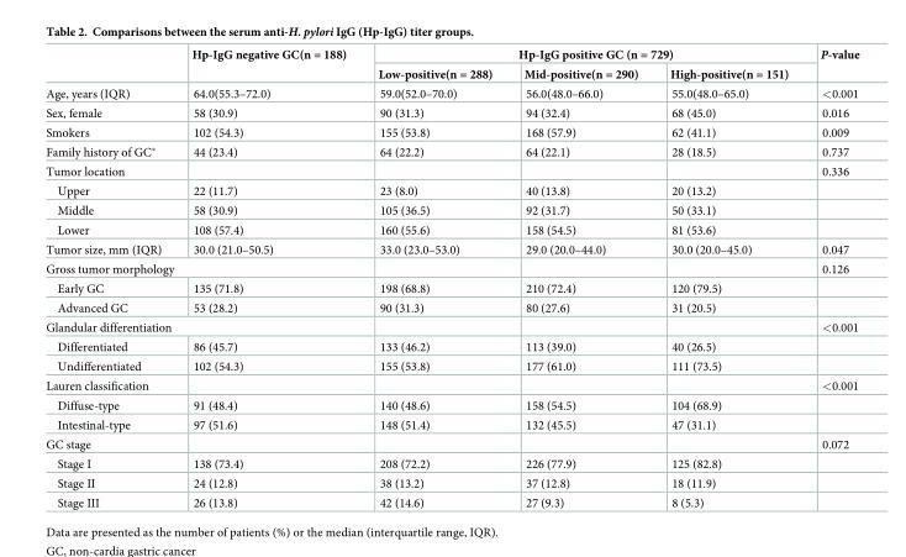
<table><thead><tr><td rowspan="2"></td><td rowspan="2">Hp-IgG negative GC(n = 188)</td><td colspan="3">Hp-IgG positive GC (n = 729)</td><td rowspan="2">P-value</td></tr><tr><td>Low-positive(n = 288)</td><td>Mid-positive(n = 290)</td><td>High-positive(n = 151)</td></tr></thead><tbody><tr><td>Age, years (IQR)</td><td>64.0(55.3–72.0)</td><td>59.0(52.0–70.0)</td><td>56.0(48.0–66.0)</td><td>55.0(48.0–65.0)</td><td>&lt;0.001</td></tr><tr><td>Sex, female</td><td>58 (30.9)</td><td>90 (31.3)</td><td>94 (32.4)</td><td>68 (45.0)</td><td>0.016</td></tr><tr><td>Smokers</td><td>102 (54.3)</td><td>155 (53.8)</td><td>168 (57.9)</td><td>62 (41.1)</td><td>0.009</td></tr><tr><td>Family history of GC*</td><td>44 (23.4)</td><td>64 (22.2)</td><td>64 (22.1)</td><td>28 (18.5)</td><td>0.737</td></tr><tr><td>Tumor location</td><td></td><td></td><td></td><td></td><td>0.336</td></tr><tr><td>Upper</td><td>22 (11.7)</td><td>23 (8.0)</td><td>40 (13.8)</td><td>20 (13.2)</td><td></td></tr><tr><td>Middle</td><td>58 (30.9)</td><td>105 (36.5)</td><td>92 (31.7)</td><td>50 (33.1)</td><td></td></tr><tr><td>Lower</td><td>108 (57.4)</td><td>160 (55.6)</td><td>158 (54.5)</td><td>81 (53.6)</td><td></td></tr><tr><td>Tumor size, mm (IQR)</td><td>30.0 (21.0–50.5)</td><td>33.0 (23.0–53.0)</td><td>29.0 (20.0–44.0)</td><td>30.0 (20.0–45.0)</td><td>0.047</td></tr><tr><td colspan="2">Gross tumor morphology</td><td></td><td></td><td></td><td>0.126</td></tr><tr><td>Early GC</td><td>135 (71.8)</td><td>198 (68.8)</td><td>210 (72.4)</td><td>120 (79.5)</td><td></td></tr><tr><td>Advanced GC</td><td>53 (28.2)</td><td>90 (31.3)</td><td>80 (27.6)</td><td>31 (20.5)</td><td></td></tr><tr><td colspan="2">Glandular differentiation</td><td></td><td></td><td></td><td>&lt;0.001</td></tr><tr><td>Differentiated</td><td>86 (45.7)</td><td>133 (46.2)</td><td>113 (39.0)</td><td>40 (26.5)</td><td></td></tr><tr><td>Undifferentiated</td><td>102 (54.3)</td><td>155 (53.8)</td><td>177 (61.0)</td><td>111 (73.5)</td><td></td></tr><tr><td>Lauren classification</td><td></td><td></td><td></td><td></td><td>&lt;0.001</td></tr><tr><td>Diffuse-type</td><td>91 (48.4)</td><td>140 (48.6)</td><td>158 (54.5)</td><td>104 (68.9)</td><td></td></tr><tr><td>Intestinal-type</td><td>97 (51.6)</td><td>148 (51.4)</td><td>132 (45.5)</td><td>47 (31.1)</td><td></td></tr><tr><td>GC stage</td><td></td><td></td><td></td><td></td><td>0.072</td></tr><tr><td>Stage I</td><td>138 (73.4)</td><td>208 (72.2)</td><td>226 (77.9)</td><td>125 (82.8)</td><td></td></tr><tr><td>Stage II</td><td>24 (12.8)</td><td>38 (13.2)</td><td>37 (12.8)</td><td>18 (11.9)</td><td></td></tr><tr><td>Stage III</td><td>26 (13.8)</td><td>42 (14.6)</td><td>27 (9.3)</td><td>8 (5.3)</td><td></td></tr></tbody></table>